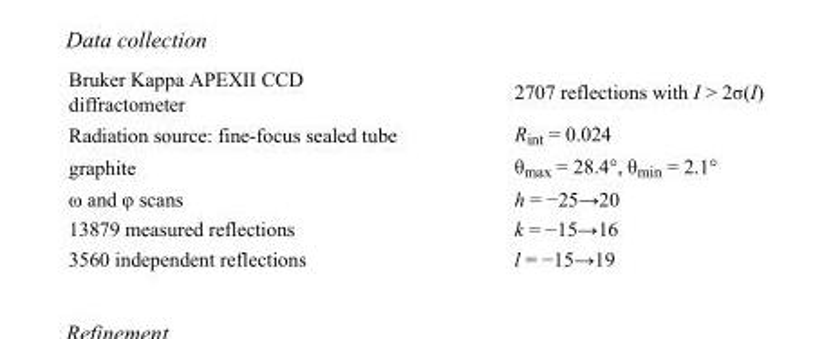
<table><tbody><tr><td>Bruker Kappa APEXII CCD diffractometer</td><td>2707 reflections with I &gt; 2σ(I)</td></tr><tr><td>Radiation source: fine-focus sealed tube</td><td>R<sub>int</sub> = 0.024</td></tr><tr><td>graphite</td><td>θ<sub>max</sub> = 28.4°, θ<sub>min</sub> = 2.1°</td></tr><tr><td>ω and φ scans</td><td>h = −25→20</td></tr><tr><td>13879 measured reflections</td><td>k = −15→16</td></tr><tr><td>3560 independent reflections</td><td>l = −15→19</td></tr></tbody></table>